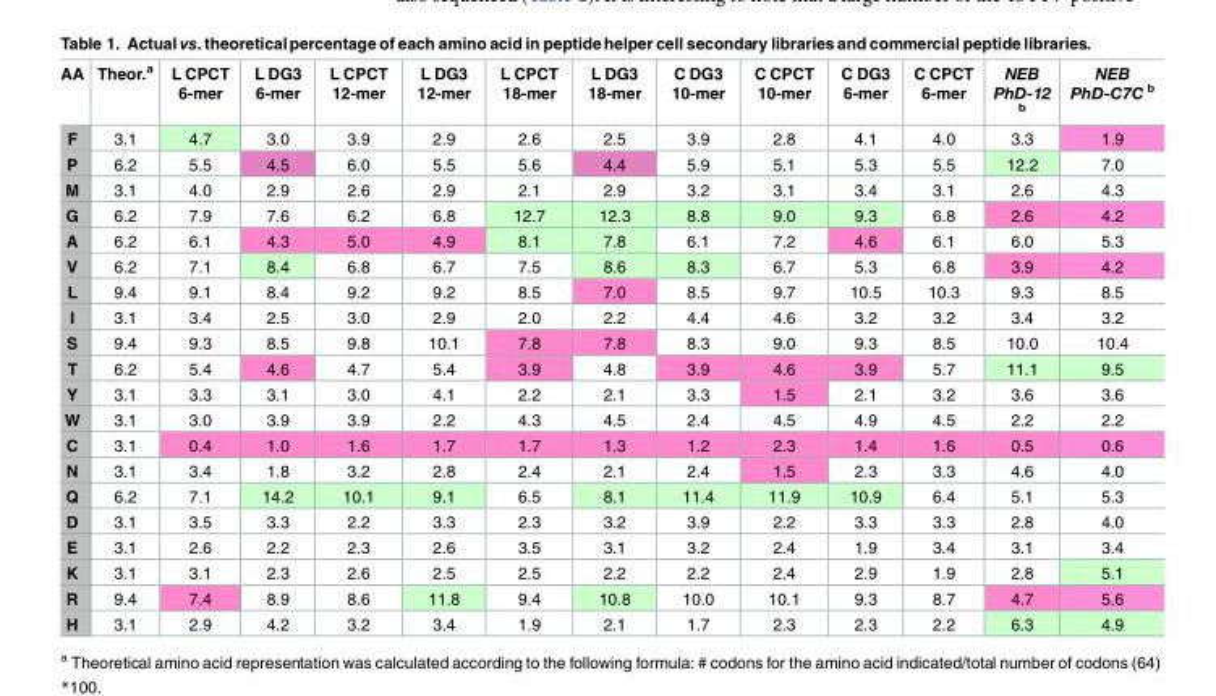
<table><thead><tr><td>AA</td><td>Theor.<sup>a</sup></td><td>L CPCT 6-mer</td><td>L DG3 6-mer</td><td>L CPCT 12-mer</td><td>L DG3 12-mer</td><td>L CPCT 18-mer</td><td>L DG3 18-mer</td><td>C DG3 10-mer</td><td>C CPCT 10-mer</td><td>C DG3 6-mer</td><td>C CPCT 6-mer</td><td>NEB PhD-12 <sup>b</sup></td><td>NEB PhD-C7C <sup>b</sup></td></tr></thead><tbody><tr><td>F</td><td>3.1</td><td>4.7</td><td>3.0</td><td>3.9</td><td>2.9</td><td>2.6</td><td>2.5</td><td>3.9</td><td>2.8</td><td>4.1</td><td>4.0</td><td>3.3</td><td>1.9</td></tr><tr><td>P</td><td>6.2</td><td>5.5</td><td>4.5</td><td>6.0</td><td>5.5</td><td>5.6</td><td>4.4</td><td>5.9</td><td>5.1</td><td>5.3</td><td>5.5</td><td>12.2</td><td>7.0</td></tr><tr><td>M</td><td>3.1</td><td>4.0</td><td>2.9</td><td>2.6</td><td>2.9</td><td>2.1</td><td>2.9</td><td>3.2</td><td>3.1</td><td>3.4</td><td>3.1</td><td>2.6</td><td>4.3</td></tr><tr><td>G</td><td>6.2</td><td>7.9</td><td>7.6</td><td>6.2</td><td>6.8</td><td>12.7</td><td>12.3</td><td>8.8</td><td>9.0</td><td>9.3</td><td>6.8</td><td>2.6</td><td>4.2</td></tr><tr><td>A</td><td>6.2</td><td>6.1</td><td>4.3</td><td>5.0</td><td>4.9</td><td>8.1</td><td>7.8</td><td>6.1</td><td>7.2</td><td>4.6</td><td>6.1</td><td>6.0</td><td>5.3</td></tr><tr><td>V</td><td>6.2</td><td>7.1</td><td>8.4</td><td>6.8</td><td>6.7</td><td>7.5</td><td>8.6</td><td>8.3</td><td>6.7</td><td>5.3</td><td>6.8</td><td>3.9</td><td>4.2</td></tr><tr><td>L</td><td>9.4</td><td>9.1</td><td>8.4</td><td>9.2</td><td>9.2</td><td>8.5</td><td>7.0</td><td>8.5</td><td>9.7</td><td>10.5</td><td>10.3</td><td>9.3</td><td>8.5</td></tr><tr><td>I</td><td>3.1</td><td>3.4</td><td>2.5</td><td>3.0</td><td>2.9</td><td>2.0</td><td>2.2</td><td>4.4</td><td>4.6</td><td>3.2</td><td>3.2</td><td>3.4</td><td>3.2</td></tr><tr><td>S</td><td>9.4</td><td>9.3</td><td>8.5</td><td>9.8</td><td>10.1</td><td>7.8</td><td>7.8</td><td>8.3</td><td>9.0</td><td>9.3</td><td>8.5</td><td>10.0</td><td>10.4</td></tr><tr><td>T</td><td>6.2</td><td>5.4</td><td>4.6</td><td>4.7</td><td>5.4</td><td>3.9</td><td>4.8</td><td>3.9</td><td>4.6</td><td>3.9</td><td>5.7</td><td>11.1</td><td>9.5</td></tr><tr><td>Y</td><td>3.1</td><td>3.3</td><td>3.1</td><td>3.0</td><td>4.1</td><td>2.2</td><td>2.1</td><td>3.3</td><td>1.5</td><td>2.1</td><td>3.2</td><td>3.6</td><td>3.6</td></tr><tr><td>W</td><td>3.1</td><td>3.0</td><td>3.9</td><td>3.9</td><td>2.2</td><td>4.3</td><td>4.5</td><td>2.4</td><td>4.5</td><td>4.9</td><td>4.5</td><td>2.2</td><td>2.2</td></tr><tr><td>C</td><td>3.1</td><td>0.4</td><td>1.0</td><td>1.6</td><td>1.7</td><td>1.7</td><td>1.3</td><td>1.2</td><td>2.3</td><td>1.4</td><td>1.6</td><td>0.5</td><td>0.6</td></tr><tr><td>N</td><td>3.1</td><td>3.4</td><td>1.8</td><td>3.2</td><td>2.8</td><td>2.4</td><td>2.1</td><td>2.4</td><td>1.5</td><td>2.3</td><td>3.3</td><td>4.6</td><td>4.0</td></tr><tr><td>Q</td><td>6.2</td><td>7.1</td><td>14.2</td><td>10.1</td><td>9.1</td><td>6.5</td><td>8.1</td><td>11.4</td><td>11.9</td><td>10.9</td><td>6.4</td><td>5.1</td><td>5.3</td></tr><tr><td>D</td><td>3.1</td><td>3.5</td><td>3.3</td><td>2.2</td><td>3.3</td><td>2.3</td><td>3.2</td><td>3.9</td><td>2.2</td><td>3.3</td><td>3.3</td><td>2.8</td><td>4.0</td></tr><tr><td>E</td><td>3.1</td><td>2.6</td><td>2.2</td><td>2.3</td><td>2.6</td><td>3.5</td><td>3.1</td><td>3.2</td><td>2.4</td><td>1.9</td><td>3.4</td><td>3.1</td><td>3.4</td></tr><tr><td>K</td><td>3.1</td><td>3.1</td><td>2.3</td><td>2.6</td><td>2.5</td><td>2.5</td><td>2.2</td><td>2.2</td><td>2.4</td><td>2.9</td><td>1.9</td><td>2.8</td><td>5.1</td></tr><tr><td>R</td><td>9.4</td><td>7.4</td><td>8.9</td><td>8.6</td><td>11.8</td><td>9.4</td><td>10.8</td><td>10.0</td><td>10.1</td><td>9.3</td><td>8.7</td><td>4.7</td><td>5.6</td></tr><tr><td>H</td><td>3.1</td><td>2.9</td><td>4.2</td><td>3.2</td><td>3.4</td><td>1.9</td><td>2.1</td><td>1.7</td><td>2.3</td><td>2.3</td><td>2.2</td><td>6.3</td><td>4.9</td></tr></tbody></table>